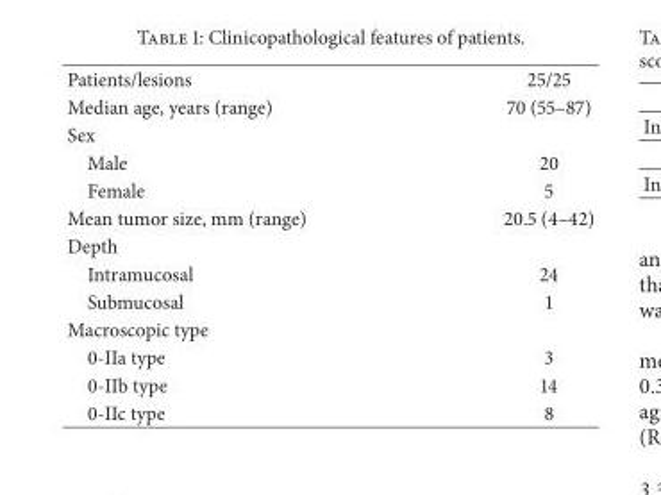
<table><tbody><tr><td>Patients/lesions</td><td>25/25</td></tr><tr><td>Median age, years (range)</td><td>70 (55–87)</td></tr><tr><td colspan="2">Sex</td></tr><tr><td>Male</td><td>20</td></tr><tr><td>Female</td><td>5</td></tr><tr><td>Mean tumor size, mm (range)</td><td>20.5 (4–42)</td></tr><tr><td colspan="2">Depth</td></tr><tr><td>Intramucosal</td><td>24</td></tr><tr><td>Submucosal</td><td>1</td></tr><tr><td colspan="2">Macroscopic type</td></tr><tr><td>0-IIa type</td><td>3</td></tr><tr><td>0-IIb type</td><td>14</td></tr><tr><td>0-IIc type</td><td>8</td></tr></tbody></table>